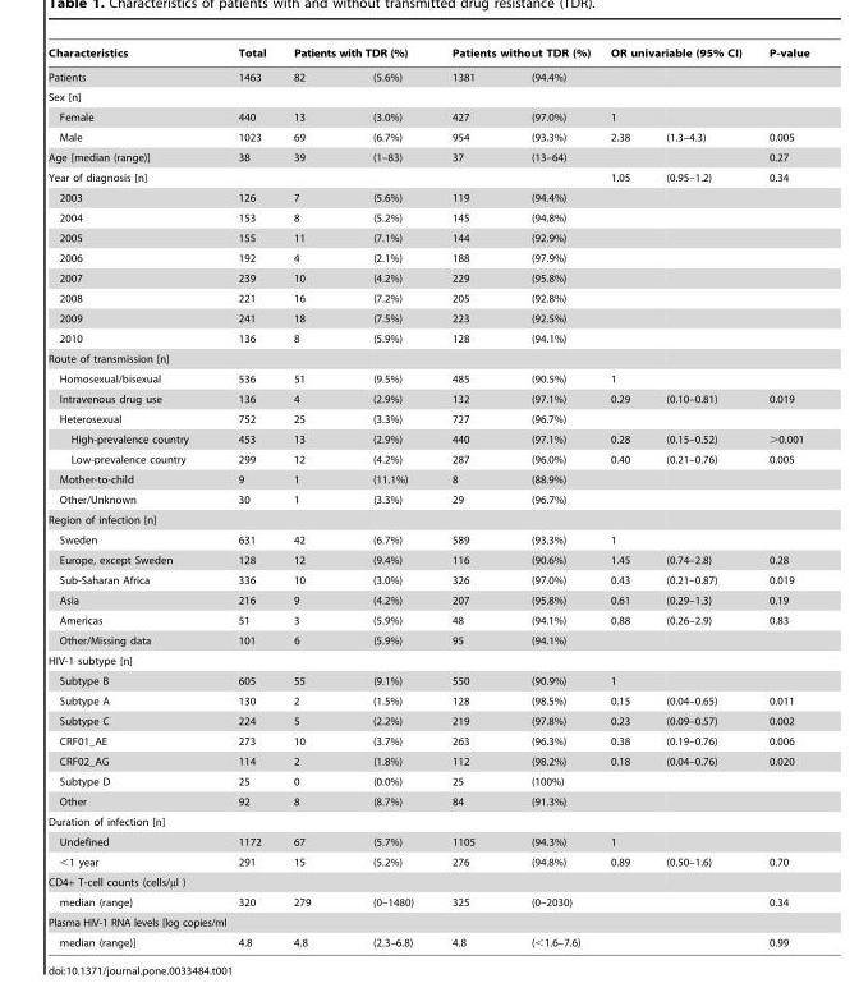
<table><thead><tr><td rowspan="2">Characteristics Patients</td><td rowspan="2">Total 1463</td><td colspan="2">Patients with TDR (%)</td><td colspan="2">Patients without TDR (%)</td><td colspan="2">OR univariable (95% CI)</td><td rowspan="2">P-value</td></tr><tr><td>82</td><td>(5.6%)</td><td>1381</td><td>(94.4%)</td><td></td><td></td></tr></thead><tbody><tr><td colspan="9">Sex [n]</td></tr><tr><td>Female</td><td>440</td><td>13</td><td>(3.0%)</td><td>427</td><td>(97.0%)</td><td>1</td><td></td><td></td></tr><tr><td>Male</td><td>1023</td><td>69</td><td>(6.7%)</td><td>954</td><td>(93.3%)</td><td>2.38</td><td>(1.3–4.3)</td><td>0.005</td></tr><tr><td>Age [median (range)]</td><td>38</td><td>39</td><td>(1–83)</td><td>37</td><td>(13–64)</td><td></td><td></td><td>0.27</td></tr><tr><td colspan="2">Year of diagnosis [n]</td><td></td><td></td><td></td><td></td><td>1.05</td><td>(0.95–1.2)</td><td>0.34</td></tr><tr><td>2003</td><td>126</td><td>7</td><td>(5.6%)</td><td>119</td><td>(94.4%)</td><td></td><td></td><td></td></tr><tr><td>2004</td><td>153</td><td>8</td><td>(5.2%)</td><td>145</td><td>(94.8%)</td><td></td><td></td><td></td></tr><tr><td>2005</td><td>155</td><td>11</td><td>(7.1%)</td><td>144</td><td>(92.9%)</td><td></td><td></td><td></td></tr><tr><td>2006</td><td>192</td><td>4</td><td>(2.1%)</td><td>188</td><td>(97.9%)</td><td></td><td></td><td></td></tr><tr><td>2007</td><td>239</td><td>10</td><td>(4.2%)</td><td>229</td><td>(95.8%)</td><td></td><td></td><td></td></tr><tr><td>2008</td><td>221</td><td>16</td><td>(7.2%)</td><td>205</td><td>(92.8%)</td><td></td><td></td><td></td></tr><tr><td>2009</td><td>241</td><td>18</td><td>(7.5%)</td><td>223</td><td>(92.5%)</td><td></td><td></td><td></td></tr><tr><td>2010</td><td>136</td><td>8</td><td>(5.9%)</td><td>128</td><td>(94.1%)</td><td></td><td></td><td></td></tr><tr><td colspan="9">Route of transmission [n]</td></tr><tr><td>Homosexual/bisexual</td><td>536</td><td>51</td><td>(9.5%)</td><td>485</td><td>(90.5%)</td><td>1</td><td></td><td></td></tr><tr><td>Intravenous drug use</td><td>136</td><td>4</td><td>(2.9%)</td><td>132</td><td>(97.1%)</td><td>0.29</td><td>(0.10–0.81)</td><td>0.019</td></tr><tr><td>Heterosexual</td><td>752</td><td>25</td><td>(3.3%)</td><td>727</td><td>(96.7%)</td><td></td><td></td><td></td></tr><tr><td>High-prevalence country</td><td>453</td><td>13</td><td>(2.9%)</td><td>440</td><td>(97.1%)</td><td>0.28</td><td>(0.15–0.52)</td><td>&gt;0.001</td></tr><tr><td>Low-prevalence country</td><td>299</td><td>12</td><td>(4.2%)</td><td>287</td><td>(96.0%)</td><td>0.40</td><td>(0.21–0.76)</td><td>0.005</td></tr><tr><td>Mother-to-child</td><td>9</td><td>1</td><td>(11.1%)</td><td>8</td><td>(88.9%)</td><td></td><td></td><td></td></tr><tr><td>Other/Unknown</td><td>30</td><td>1</td><td>(3.3%)</td><td>29</td><td>(96.7%)</td><td></td><td></td><td></td></tr><tr><td colspan="9">Region of infection [n]</td></tr><tr><td>Sweden</td><td>631</td><td>42</td><td>(6.7%)</td><td>589</td><td>(93.3%)</td><td>1</td><td></td><td></td></tr><tr><td>Europe, except Sweden</td><td>128</td><td>12</td><td>(9.4%)</td><td>116</td><td>(90.6%)</td><td>1.45</td><td>(0.74–2.8)</td><td>0.28</td></tr><tr><td>Sub-Saharan Africa</td><td>336</td><td>10</td><td>(3.0%)</td><td>326</td><td>(97.0%)</td><td>0.43</td><td>(0.21–0.87)</td><td>0.019</td></tr><tr><td>Asia</td><td>216</td><td>9</td><td>(4.2%)</td><td>207</td><td>(95.8%)</td><td>0.61</td><td>(0.29–1.3)</td><td>0.19</td></tr><tr><td>Americas</td><td>51</td><td>3</td><td>(5.9%)</td><td>48</td><td>(94.1%)</td><td>0.88</td><td>(0.26–2.9)</td><td>0.83</td></tr><tr><td>Other/Missing data</td><td>101</td><td>6</td><td>(5.9%)</td><td>95</td><td>(94.1%)</td><td></td><td></td><td></td></tr><tr><td colspan="9">HIV-1 subtype [n]</td></tr><tr><td>Subtype B</td><td>605</td><td>55</td><td>(9.1%)</td><td>550</td><td>(90.9%)</td><td>1</td><td></td><td></td></tr><tr><td>Subtype A</td><td>130</td><td>2</td><td>(1.5%)</td><td>128</td><td>(98.5%)</td><td>0.15</td><td>(0.04–0.65)</td><td>0.011</td></tr><tr><td>Subtype C</td><td>224</td><td>5</td><td>(2.2%)</td><td>219</td><td>(97.8%)</td><td>0.23</td><td>(0.09–0.57)</td><td>0.002</td></tr><tr><td>CRF01_AE</td><td>273</td><td>10</td><td>(3.7%)</td><td>263</td><td>(96.3%)</td><td>0.38</td><td>(0.19–0.76)</td><td>0.006</td></tr><tr><td>CRF02_AG</td><td>114</td><td>2</td><td>(1.8%)</td><td>112</td><td>(98.2%)</td><td>0.18</td><td>(0.04–0.76)</td><td>0.020</td></tr><tr><td>Subtype D</td><td>25</td><td>0</td><td>(0.0%)</td><td>25</td><td>(100%)</td><td></td><td></td><td></td></tr><tr><td>Other</td><td>92</td><td>8</td><td>(8.7%)</td><td>84</td><td>(91.3%)</td><td></td><td></td><td></td></tr><tr><td colspan="9">Duration of infection [n]</td></tr><tr><td>Undefined</td><td>1172</td><td>67</td><td>(5.7%)</td><td>1105</td><td>(94.3%)</td><td>1</td><td></td><td></td></tr><tr><td>&lt;1 year</td><td>291</td><td>15</td><td>(5.2%)</td><td>276</td><td>(94.8%)</td><td>0.89</td><td>(0.50–1.6)</td><td>0.70</td></tr><tr><td colspan="9">CD4+ T-cell counts (cells/µl )</td></tr><tr><td>median (range)</td><td>320</td><td>279</td><td>(0–1480)</td><td>325</td><td>(0–2030)</td><td></td><td></td><td>0.34</td></tr><tr><td colspan="9">Plasma HIV-1 RNA levels [log copies/ml</td></tr><tr><td>median (range)]</td><td>4.8</td><td>4.8</td><td>(2.3–6.8)</td><td>4.8</td><td>(&lt;1.6–7.6)</td><td></td><td></td><td>0.99</td></tr></tbody></table>